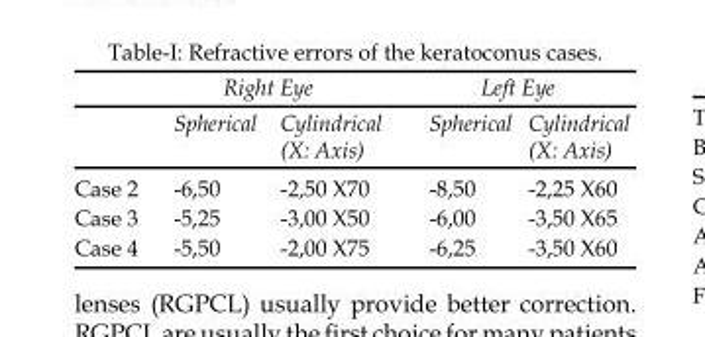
<table><thead><tr><td rowspan="2"></td><td colspan="2">Right Eye</td><td colspan="2">Left Eye</td></tr><tr><td>Spherical</td><td>Cylindrical (X: Axis)</td><td>Spherical</td><td>Cylindrical (X: Axis)</td></tr></thead><tbody><tr><td>Case 2</td><td>-6,50</td><td>-2,50 X70</td><td>-8,50</td><td>-2,25 X60</td></tr><tr><td>Case 3</td><td>-5,25</td><td>-3,00 X50</td><td>-6,00</td><td>-3,50 X65</td></tr><tr><td>Case 4</td><td>-5,50</td><td>-2,00 X75</td><td>-6,25</td><td>-3,50 X60</td></tr></tbody></table>